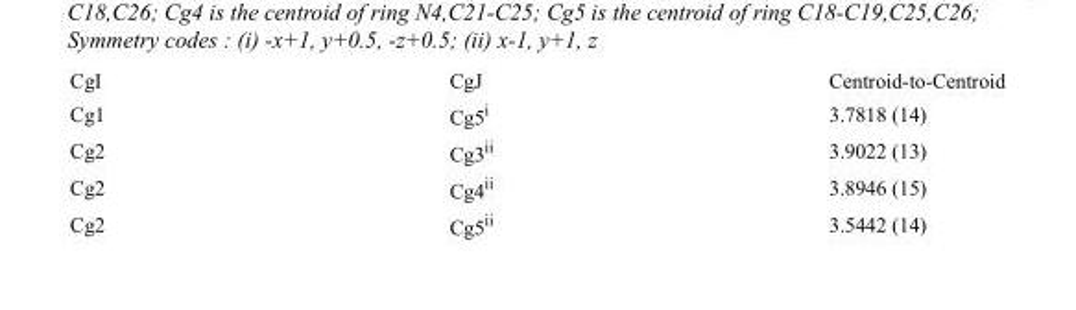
<table><tbody><tr><td>CgI</td><td>CgJ</td><td>Centroid-to-Centroid</td></tr><tr><td>Cg1</td><td>Cg5<sup>i</sup></td><td>3.7818 (14)</td></tr><tr><td>Cg2</td><td>Cg3<sup>ii</sup></td><td>3.9022 (13)</td></tr><tr><td>Cg2</td><td>Cg4<sup>ii</sup></td><td>3.8946 (15)</td></tr><tr><td>Cg2</td><td>Cg5<sup>ii</sup></td><td>3.5442 (14)</td></tr></tbody></table>